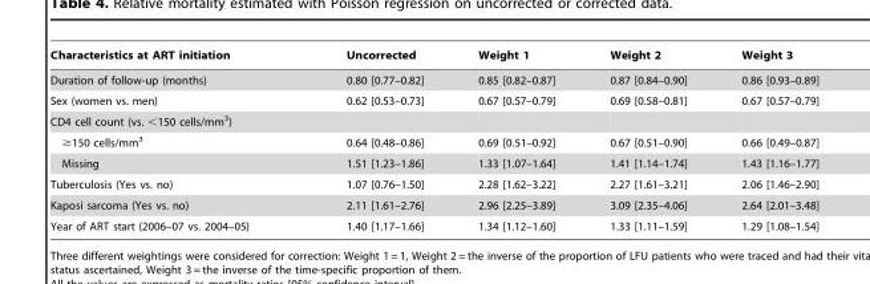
<table><thead><tr><td>Characteristics at ART initiation</td><td>Uncorrected</td><td>Weight 1</td><td>Weight 2</td><td>Weight 3</td></tr></thead><tbody><tr><td>Duration of follow-up (months)</td><td>0.80 [0.77–0.82]</td><td>0.85 [0.82–0.87]</td><td>0.87 [0.84–0.90]</td><td>0.86 [0.93–0.89]</td></tr><tr><td>Sex (women vs. men)</td><td>0.62 [0.53–0.73]</td><td>0.67 [0.57–0.79]</td><td>0.69 [0.58–0.81]</td><td>0.67 [0.57–0.79]</td></tr><tr><td colspan="5">CD4 cell count (vs. &lt;150 cells/mm<sup>3</sup>)</td></tr><tr><td>≥150 cells/mm<sup>3</sup></td><td>0.64 [0.48–0.86]</td><td>0.69 [0.51–0.92]</td><td>0.67 [0.51–0.90]</td><td>0.66 [0.49–0.87]</td></tr><tr><td>Missing</td><td>1.51 [1.23–1.86]</td><td>1.33 [1.07–1.64]</td><td>1.41 [1.14–1.74]</td><td>1.43 [1.16–1.77]</td></tr><tr><td>Tuberculosis (Yes vs. no)</td><td>1.07 [0.76–1.50]</td><td>2.28 [1.62–3.22]</td><td>2.27 [1.61–3.21]</td><td>2.06 [1.46–2.90]</td></tr><tr><td>Kaposi sarcoma (Yes vs. no)</td><td>2.11 [1.61–2.76]</td><td>2.96 [2.25–3.89]</td><td>3.09 [2.35–4.06]</td><td>2.64 [2.01–3.48]</td></tr><tr><td>Year of ART start (2006–07 vs. 2004–05)</td><td>1.40 [1.17–1.66]</td><td>1.34 [1.12–1.60]</td><td>1.33 [1.11–1.59]</td><td>1.29 [1.08–1.54]</td></tr></tbody></table>